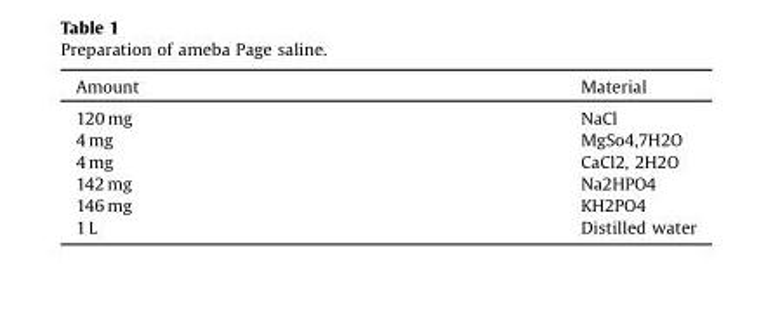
<table><thead><tr><td>Amount</td><td>Material</td></tr></thead><tbody><tr><td>120 mg</td><td>NaCl</td></tr><tr><td>4 mg</td><td>MgSo4,7H2O</td></tr><tr><td>4 mg</td><td>CaCl2, 2H2O</td></tr><tr><td>142 mg</td><td>Na2HPO4</td></tr><tr><td>146 mg</td><td>KH2PO4</td></tr><tr><td>1 L</td><td>Distilled water</td></tr></tbody></table>